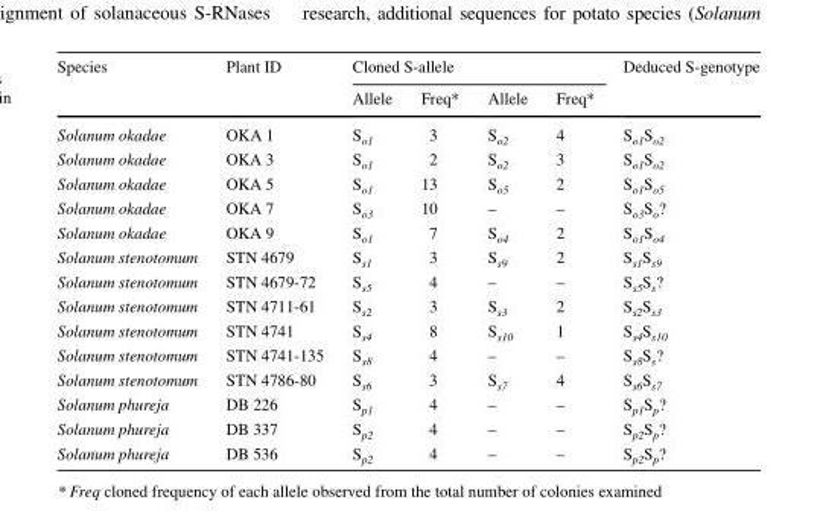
<table><thead><tr><td rowspan="2">Species</td><td rowspan="2">Plant ID</td><td colspan="4">Cloned S-allele</td><td rowspan="2">Deduced S-genotype</td></tr><tr><td>Allele</td><td>Freq*</td><td>Allele</td><td>Freq*</td></tr></thead><tbody><tr><td>Solanum okadae</td><td>OKA 1</td><td>S<sub>o1</sub></td><td>3</td><td>S<sub>o2</sub></td><td>4</td><td>S<sub>o1</sub>S<sub>o2</sub></td></tr><tr><td>Solanum okadae</td><td>OKA 3</td><td>S<sub>o1</sub></td><td>2</td><td>S<sub>o2</sub></td><td>3</td><td>S<sub>o1</sub>S<sub>o2</sub></td></tr><tr><td>Solanum okadae</td><td>OKA 5</td><td>S<sub>o1</sub></td><td>13</td><td>S<sub>o5</sub></td><td>2</td><td>S<sub>o1</sub>S<sub>o5</sub></td></tr><tr><td>Solanum okadae</td><td>OKA 7</td><td>S<sub>o3</sub></td><td>10</td><td>–</td><td>–</td><td>S<sub>o3</sub>S<sub>o</sub>?</td></tr><tr><td>Solanum okadae</td><td>OKA 9</td><td>S<sub>o1</sub></td><td>7</td><td>S<sub>o4</sub></td><td>2</td><td>S<sub>o1</sub>S<sub>o4</sub></td></tr><tr><td>Solanum stenotomum</td><td>STN 4679</td><td>S<sub>s1</sub></td><td>3</td><td>S<sub>s9</sub></td><td>2</td><td>S<sub>s1</sub>S<sub>s9</sub></td></tr><tr><td>Solanum stenotomum</td><td>STN 4679-72</td><td>S<sub>s5</sub></td><td>4</td><td>–</td><td>–</td><td>S<sub>s5</sub>S<sub>s</sub>?</td></tr><tr><td>Solanum stenotomum</td><td>STN 4711-61</td><td>S<sub>s2</sub></td><td>3</td><td>S<sub>s3</sub></td><td>2</td><td>S<sub>s2</sub>S<sub>s3</sub></td></tr><tr><td>Solanum stenotomum</td><td>STN 4741</td><td>S<sub>s4</sub></td><td>8</td><td>S<sub>s10</sub></td><td>1</td><td>S<sub>s4</sub>S<sub>s10</sub></td></tr><tr><td>Solanum stenotomum</td><td>STN 4741-135</td><td>S<sub>s8</sub></td><td>4</td><td>–</td><td>–</td><td>S<sub>s8</sub>S<sub>s</sub>?</td></tr><tr><td>Solanum stenotomum</td><td>STN 4786-80</td><td>S<sub>s6</sub></td><td>3</td><td>S<sub>s7</sub></td><td>4</td><td>S<sub>s6</sub>S<sub>s7</sub></td></tr><tr><td>Solanum phureja</td><td>DB 226</td><td>S<sub>p1</sub></td><td>4</td><td>–</td><td>–</td><td>S<sub>p1</sub>S<sub>p</sub>?</td></tr><tr><td>Solanum phureja</td><td>DB 337</td><td>S<sub>p2</sub></td><td>4</td><td>–</td><td>–</td><td>S<sub>p2</sub>S<sub>p</sub>?</td></tr><tr><td>Solanum phureja</td><td>DB 536</td><td>S<sub>p2</sub></td><td>4</td><td>–</td><td>–</td><td>S<sub>p2</sub>S<sub>p</sub>?</td></tr></tbody></table>